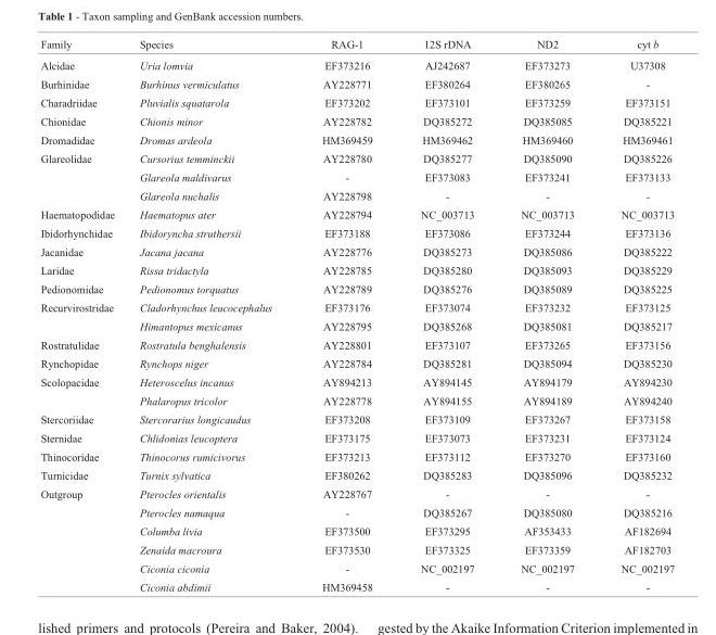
<table><thead><tr><td>Family</td><td>Species</td><td>RAG-1</td><td>12S rDNA</td><td>ND2</td><td>cyt b</td></tr></thead><tbody><tr><td>Alcidae</td><td>Uria lomvia</td><td>EF373216</td><td>AJ242687</td><td>EF373273</td><td>U37308</td></tr><tr><td>Burhinidae</td><td>Burhinus vermiculatus</td><td>AY228771</td><td>EF380264</td><td>EF380265</td><td>-</td></tr><tr><td>Charadriidae</td><td>Pluvialis squatarola</td><td>EF373202</td><td>EF373101</td><td>EF373259</td><td>EF373151</td></tr><tr><td>Chionidae</td><td>Chionis minor</td><td>AY228782</td><td>DQ385272</td><td>DQ385085</td><td>DQ385221</td></tr><tr><td>Dromadidae</td><td>Dromas ardeola</td><td>HM369459</td><td>HM369462</td><td>HM369460</td><td>HM369461</td></tr><tr><td rowspan="3">Glareolidae</td><td>Cursorius temminckii</td><td>AY228780</td><td>DQ385277</td><td>DQ385090</td><td>DQ385226</td></tr><tr><td>Glareola maldivarus</td><td>-</td><td>EF373083</td><td>EF373241</td><td>EF373133</td></tr><tr><td>Glareola nuchalis</td><td>AY228798</td><td>-</td><td>-</td><td>-</td></tr><tr><td>Haematopodidae</td><td>Haematopus ater</td><td>AY228794</td><td>NC_003713</td><td>NC_003713</td><td>NC_003713</td></tr><tr><td>Ibidorhynchidae</td><td>Ibidoryncha struthersii</td><td>EF373188</td><td>EF373086</td><td>EF373244</td><td>EF373136</td></tr><tr><td>Jacanidae</td><td>Jacana jacana</td><td>AY228776</td><td>DQ385273</td><td>DQ385086</td><td>DQ385222</td></tr><tr><td>Laridae</td><td>Rissa tridactyla</td><td>AY228785</td><td>DQ385280</td><td>DQ385093</td><td>DQ385229</td></tr><tr><td>Pedionomidae</td><td>Pedionomus torquatus</td><td>AY228789</td><td>DQ385276</td><td>DQ385089</td><td>DQ385225</td></tr><tr><td rowspan="2">Recurvirostridae</td><td>Cladorhynchus leucocephalus</td><td>EF373176</td><td>EF373074</td><td>EF373232</td><td>EF373125</td></tr><tr><td>Himantopus mexicanus</td><td>AY228795</td><td>DQ385268</td><td>DQ385081</td><td>DQ385217</td></tr><tr><td>Rostratulidae</td><td>Rostratula benghalensis</td><td>AY228801</td><td>EF373107</td><td>EF373265</td><td>EF373156</td></tr><tr><td>Rynchopidae</td><td>Rynchops niger</td><td>AY228784</td><td>DQ385281</td><td>DQ385094</td><td>DQ385230</td></tr><tr><td rowspan="2">Scolopacidae</td><td>Heteroscelus incanus</td><td>AY894213</td><td>AY894145</td><td>AY894179</td><td>AY894230</td></tr><tr><td>Phalaropus tricolor</td><td>AY228778</td><td>AY894155</td><td>AY894189</td><td>AY894240</td></tr><tr><td>Stercoriidae</td><td>Stercorarius longicaudus</td><td>EF373208</td><td>EF373109</td><td>EF373267</td><td>EF373158</td></tr><tr><td>Sternidae</td><td>Chlidonias leucoptera</td><td>EF373175</td><td>EF373073</td><td>EF373231</td><td>EF373124</td></tr><tr><td>Thinocoridae</td><td>Thinocorus rumicivorus</td><td>EF373213</td><td>EF373112</td><td>EF373270</td><td>EF373160</td></tr><tr><td>Turnicidae</td><td>Turnix sylvatica</td><td>EF380262</td><td>DQ385283</td><td>DQ385096</td><td>DQ385232</td></tr><tr><td rowspan="6">Outgroup</td><td>Pterocles orientalis</td><td>AY228767</td><td>-</td><td>-</td><td>-</td></tr><tr><td>Pterocles namaqua</td><td>-</td><td>DQ385267</td><td>DQ385080</td><td>DQ385216</td></tr><tr><td>Columba livia</td><td>EF373500</td><td>EF373295</td><td>AF353433</td><td>AF182694</td></tr><tr><td>Zenaida macroura</td><td>EF373530</td><td>EF373325</td><td>EF373359</td><td>AF182703</td></tr><tr><td>Ciconia ciconia</td><td>-</td><td>NC_002197</td><td>NC_002197</td><td>NC_002197</td></tr><tr><td>Ciconia abdimii</td><td>HM369458</td><td>-</td><td>-</td><td>-</td></tr></tbody></table>